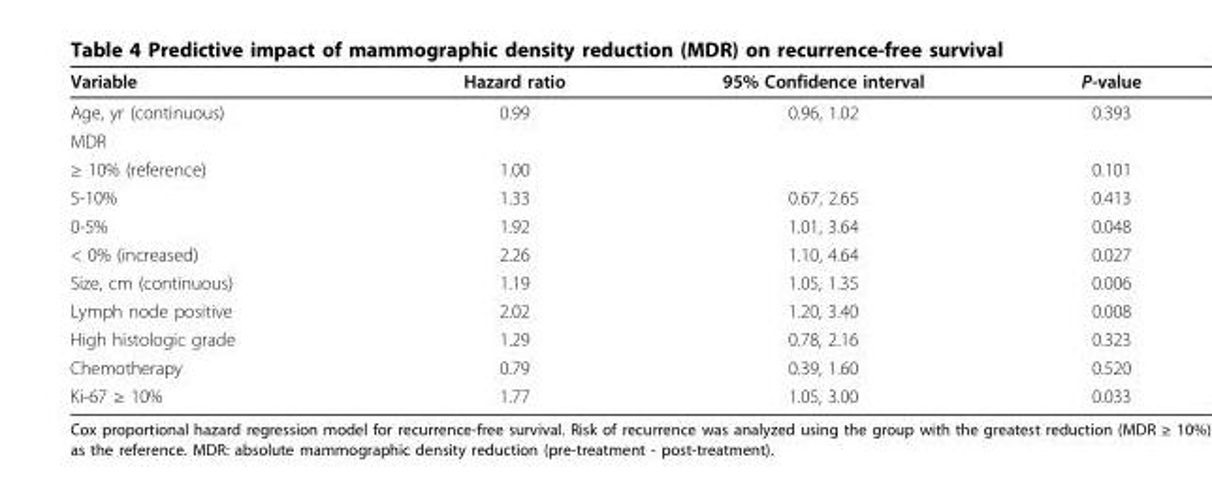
<table><thead><tr><td>Variable</td><td>Hazard ratio</td><td>95% Confidence interval</td><td>P-value</td></tr></thead><tbody><tr><td>Age, yr (continuous)</td><td>0.99</td><td>0.96, 1.02</td><td>0.393</td></tr><tr><td colspan="4">MDR</td></tr><tr><td>≥ 10% (reference)</td><td>1.00</td><td></td><td>0.101</td></tr><tr><td>5-10%</td><td>1.33</td><td>0.67, 2.65</td><td>0.413</td></tr><tr><td>0-5%</td><td>1.92</td><td>1.01, 3.64</td><td>0.048</td></tr><tr><td>&lt; 0% (increased)</td><td>2.26</td><td>1.10, 4.64</td><td>0.027</td></tr><tr><td>Size, cm (continuous)</td><td>1.19</td><td>1.05, 1.35</td><td>0.006</td></tr><tr><td>Lymph node positive</td><td>2.02</td><td>1.20, 3.40</td><td>0.008</td></tr><tr><td>High histologic grade</td><td>1.29</td><td>0.78, 2.16</td><td>0.323</td></tr><tr><td>Chemotherapy</td><td>0.79</td><td>0.39, 1.60</td><td>0.520</td></tr><tr><td>Ki-67 ≥ 10%</td><td>1.77</td><td>1.05, 3.00</td><td>0.033</td></tr></tbody></table>